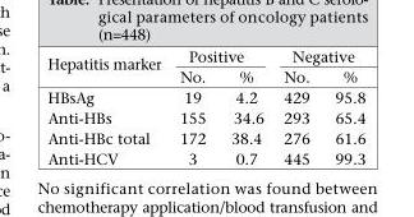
<table><thead><tr><td rowspan="2">Hepatitis marker</td><td colspan="2">Positive</td><td colspan="2">Negative</td></tr><tr><td>No.</td><td>%</td><td>No.</td><td>%</td></tr></thead><tbody><tr><td>HBsAg</td><td>19</td><td>4.2</td><td>429</td><td>95.8</td></tr><tr><td>Anti-HBs</td><td>155</td><td>34.6</td><td>293</td><td>65.4</td></tr><tr><td>Anti-HBc total</td><td>172</td><td>38.4</td><td>276</td><td>61.6</td></tr><tr><td>Anti-HCV</td><td>3</td><td>0.7</td><td>445</td><td>99.3</td></tr></tbody></table>